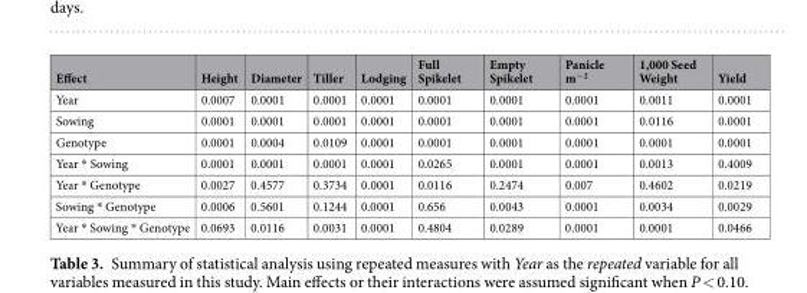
<table><thead><tr><td>Effect</td><td>Height</td><td>Diameter</td><td>Tiller</td><td>Lodging</td><td>Full Spikelet</td><td>Empty Spikelet</td><td>Panicle m<sup>−2</sup></td><td>1,000 Seed Weight</td><td>Yield</td></tr></thead><tbody><tr><td>Year</td><td>0.0007</td><td>0.0001</td><td>0.0001</td><td>0.0001</td><td>0.0001</td><td>0.0001</td><td>0.0001</td><td>0.0011</td><td>0.0001</td></tr><tr><td>Sowing</td><td>0.0001</td><td>0.0001</td><td>0.0001</td><td>0.0001</td><td>0.0001</td><td>0.0001</td><td>0.0001</td><td>0.0116</td><td>0.0001</td></tr><tr><td>Genotype</td><td>0.0001</td><td>0.0004</td><td>0.0109</td><td>0.0001</td><td>0.0001</td><td>0.0001</td><td>0.0001</td><td>0.0001</td><td>0.0001</td></tr><tr><td>Year * Sowing</td><td>0.0001</td><td>0.0001</td><td>0.0001</td><td>0.0001</td><td>0.0265</td><td>0.0001</td><td>0.0001</td><td>0.0013</td><td>0.4009</td></tr><tr><td>Year * Genotype</td><td>0.0027</td><td>0.4577</td><td>0.3734</td><td>0.0001</td><td>0.0116</td><td>0.2474</td><td>0.007</td><td>0.4602</td><td>0.0219</td></tr><tr><td>Sowing * Genotype</td><td>0.0006</td><td>0.5601</td><td>0.1244</td><td>0.0001</td><td>0.656</td><td>0.0043</td><td>0.0001</td><td>0.0034</td><td>0.0029</td></tr><tr><td>Year * Sowing * Genotype</td><td>0.0693</td><td>0.0116</td><td>0.0031</td><td>0.0001</td><td>0.4804</td><td>0.0289</td><td>0.0001</td><td>0.0001</td><td>0.0466</td></tr></tbody></table>